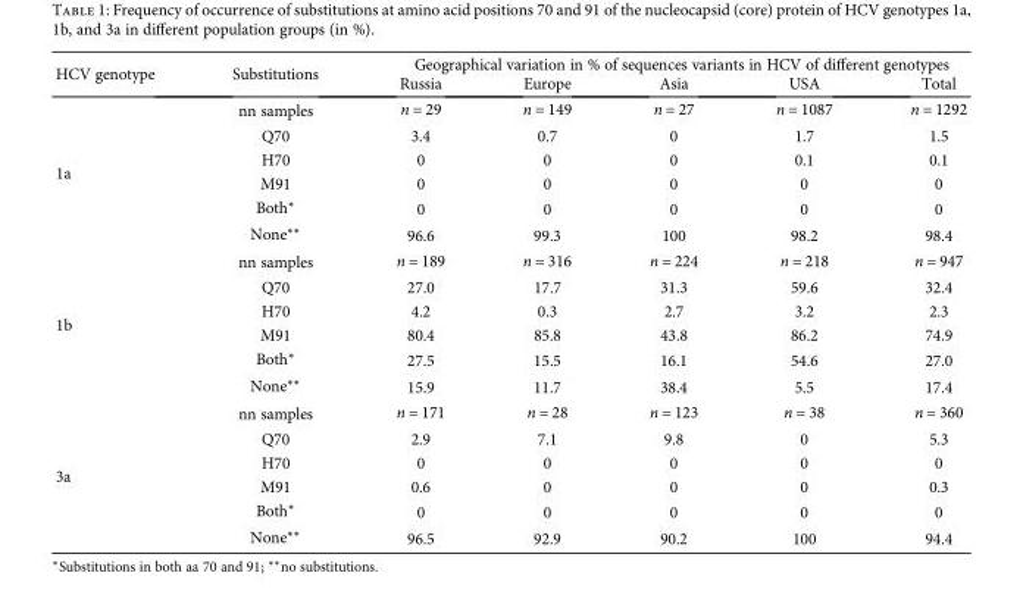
<table><thead><tr><td rowspan="2">HCV genotype</td><td rowspan="2">Substitutions</td><td colspan="5">Geographical variation in % of sequences variants in HCV of different genotypes</td></tr><tr><td>Russia</td><td>Europe</td><td>Asia</td><td>USA</td><td>Total</td></tr></thead><tbody><tr><td rowspan="6">1a</td><td>nn samples</td><td>n = 29</td><td>n = 149</td><td>n = 27</td><td>n = 1087</td><td>n = 1292</td></tr><tr><td>Q70</td><td>3.4</td><td>0.7</td><td>0</td><td>1.7</td><td>1.5</td></tr><tr><td>H70</td><td>0</td><td>0</td><td>0</td><td>0.1</td><td>0.1</td></tr><tr><td>M91</td><td>0</td><td>0</td><td>0</td><td>0</td><td>0</td></tr><tr><td>Both∗</td><td>0</td><td>0</td><td>0</td><td>0</td><td>0</td></tr><tr><td>None∗∗</td><td>96.6</td><td>99.3</td><td>100</td><td>98.2</td><td>98.4</td></tr><tr><td rowspan="6">1b</td><td>nn samples</td><td>n = 189</td><td>n = 316</td><td>n = 224</td><td>n = 218</td><td>n = 947</td></tr><tr><td>Q70</td><td>27.0</td><td>17.7</td><td>31.3</td><td>59.6</td><td>32.4</td></tr><tr><td>H70</td><td>4.2</td><td>0.3</td><td>2.7</td><td>3.2</td><td>2.3</td></tr><tr><td>M91</td><td>80.4</td><td>85.8</td><td>43.8</td><td>86.2</td><td>74.9</td></tr><tr><td>Both∗</td><td>27.5</td><td>15.5</td><td>16.1</td><td>54.6</td><td>27.0</td></tr><tr><td>None∗∗</td><td>15.9</td><td>11.7</td><td>38.4</td><td>5.5</td><td>17.4</td></tr><tr><td rowspan="6">3a</td><td>nn samples</td><td>n = 171</td><td>n = 28</td><td>n = 123</td><td>n = 38</td><td>n = 360</td></tr><tr><td>Q70</td><td>2.9</td><td>7.1</td><td>9.8</td><td>0</td><td>5.3</td></tr><tr><td>H70</td><td>0</td><td>0</td><td>0</td><td>0</td><td>0</td></tr><tr><td>M91</td><td>0.6</td><td>0</td><td>0</td><td>0</td><td>0.3</td></tr><tr><td>Both∗</td><td>0</td><td>0</td><td>0</td><td>0</td><td>0</td></tr><tr><td>None∗∗</td><td>96.5</td><td>92.9</td><td>90.2</td><td>100</td><td>94.4</td></tr></tbody></table>